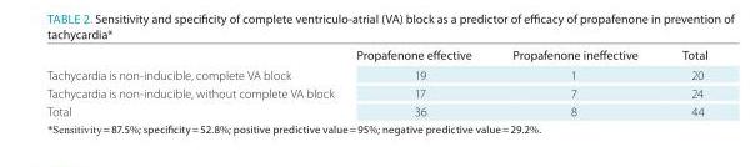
<table><thead><tr><td></td><td>Propafenone effective</td><td>Propafenone ineffective</td><td>total</td></tr></thead><tbody><tr><td>Tachycardia is non-inducible, complete VA block</td><td>19</td><td>1</td><td>20</td></tr><tr><td>Tachycardia is non-inducible, without complete VA block</td><td>17</td><td>7</td><td>24</td></tr><tr><td>Total</td><td>36</td><td>8</td><td>44</td></tr></tbody></table>